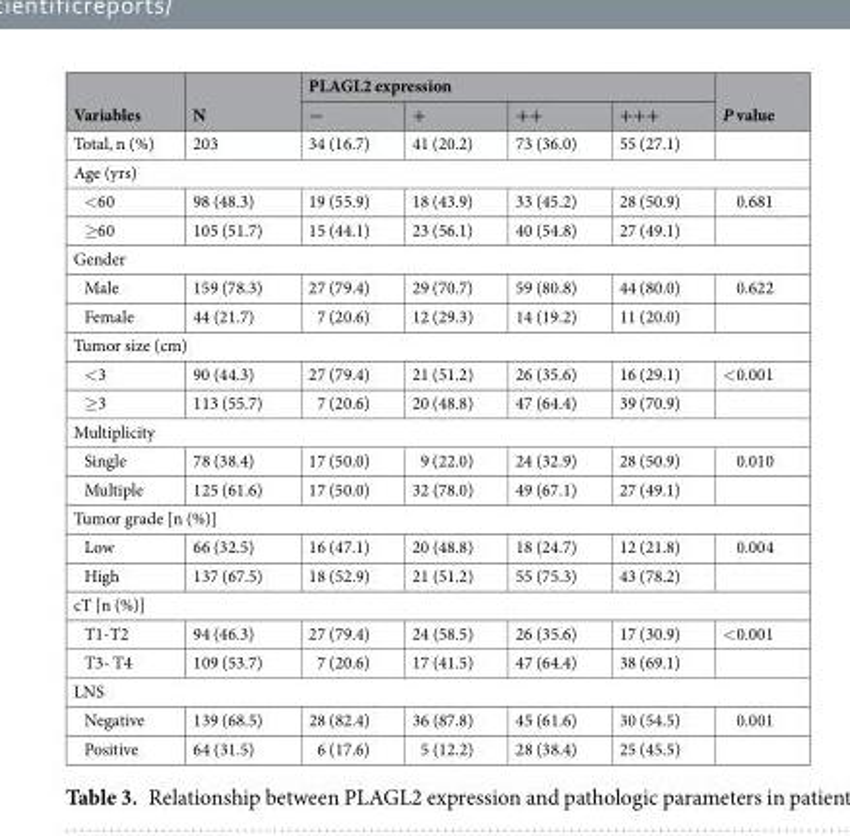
<table><thead><tr><td rowspan="2">Variables</td><td rowspan="2">N</td><td colspan="4">PLAGL2 expression</td><td rowspan="2">P value</td></tr><tr><td>−</td><td>+</td><td>++</td><td>+++</td></tr></thead><tbody><tr><td>Total, n (%)</td><td>203</td><td>34 (16.7)</td><td>41 (20.2)</td><td>73 (36.0)</td><td>55 (27.1)</td><td></td></tr><tr><td colspan="7">Age (yrs)</td></tr><tr><td>&lt;60</td><td>98 (48.3)</td><td>19 (55.9)</td><td>18 (43.9)</td><td>33 (45.2)</td><td>28 (50.9)</td><td>0.681</td></tr><tr><td>≥60</td><td>105 (51.7)</td><td>15 (44.1)</td><td>23 (56.1)</td><td>40 (54.8)</td><td>27 (49.1)</td><td></td></tr><tr><td colspan="7">Gender</td></tr><tr><td>Male</td><td>159 (78.3)</td><td>27 (79.4)</td><td>29 (70.7)</td><td>59 (80.8)</td><td>44 (80.0)</td><td>0.622</td></tr><tr><td>Female</td><td>44 (21.7)</td><td>7 (20.6)</td><td>12 (29.3)</td><td>14 (19.2)</td><td>11 (20.0)</td><td></td></tr><tr><td colspan="7">Tumor size (cm)</td></tr><tr><td>&lt;3</td><td>90 (44.3)</td><td>27 (79.4)</td><td>21 (51.2)</td><td>26 (35.6)</td><td>16 (29.1)</td><td>&lt;0.001</td></tr><tr><td>≥3</td><td>113 (55.7)</td><td>7 (20.6)</td><td>20 (48.8)</td><td>47 (64.4)</td><td>39 (70.9)</td><td></td></tr><tr><td colspan="7">Multiplicity</td></tr><tr><td>Single</td><td>78 (38.4)</td><td>17 (50.0)</td><td>9 (22.0)</td><td>24 (32.9)</td><td>28 (50.9)</td><td>0.010</td></tr><tr><td>Multiple</td><td>125 (61.6)</td><td>17 (50.0)</td><td>32 (78.0)</td><td>49 (67.1)</td><td>27 (49.1)</td><td></td></tr><tr><td colspan="7">Tumor grade [n (%)]</td></tr><tr><td>Low</td><td>66 (32.5)</td><td>16 (47.1)</td><td>20 (48.8)</td><td>18 (24.7)</td><td>12 (21.8)</td><td>0.004</td></tr><tr><td>High</td><td>137 (67.5)</td><td>18 (52.9)</td><td>21 (51.2)</td><td>55 (75.3)</td><td>43 (78.2)</td><td></td></tr><tr><td colspan="7">cT [n (%)]</td></tr><tr><td>T1-T2</td><td>94 (46.3)</td><td>27 (79.4)</td><td>24 (58.5)</td><td>26 (35.6)</td><td>17 (30.9)</td><td>&lt;0.001</td></tr><tr><td>T3- T4</td><td>109 (53.7)</td><td>7 (20.6)</td><td>17 (41.5)</td><td>47 (64.4)</td><td>38 (69.1)</td><td></td></tr><tr><td colspan="7">LNS</td></tr><tr><td>Negative</td><td>139 (68.5)</td><td>28 (82.4)</td><td>36 (87.8)</td><td>45 (61.6)</td><td>30 (54.5)</td><td>0.001</td></tr><tr><td>Positive</td><td>64 (31.5)</td><td>6 (17.6)</td><td>5 (12.2)</td><td>28 (38.4)</td><td>25 (45.5)</td><td></td></tr></tbody></table>